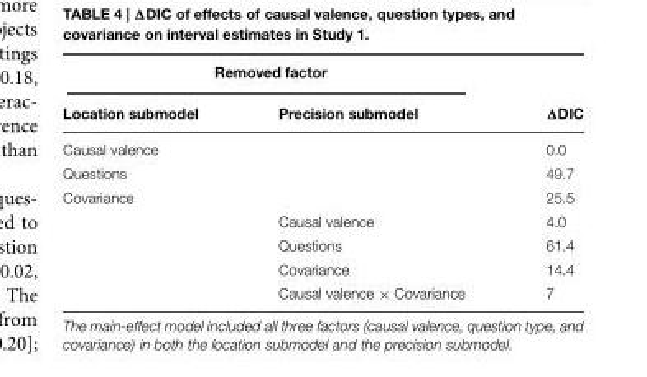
<table><thead><tr><td colspan="2">Removed factor</td><td rowspan="2">ΔDIC</td></tr><tr><td>Location submodel</td><td>Precision submodel</td></tr></thead><tbody><tr><td>Causal valence</td><td></td><td>0.0</td></tr><tr><td>Questions</td><td></td><td>49.7</td></tr><tr><td rowspan="5">Covariance</td><td></td><td>25.5</td></tr><tr><td>Causal valence</td><td>4.0</td></tr><tr><td>Questions</td><td>61.4</td></tr><tr><td>Covariance</td><td>14.4</td></tr><tr><td>Causal valence × Covariance</td><td>7</td></tr></tbody></table>